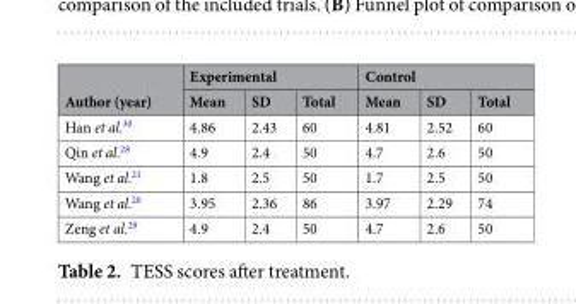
<table><thead><tr><td rowspan="2">Author (year)</td><td colspan="3">Experimental</td><td colspan="3">Control</td></tr><tr><td>Mean</td><td>SD</td><td>Total</td><td>Mean</td><td>SD</td><td>Total</td></tr></thead><tbody><tr><td>Han et al.<sup>30</sup></td><td>4.86</td><td>2.43</td><td>60</td><td>4.81</td><td>2.52</td><td>60</td></tr><tr><td>Qin et al.<sup>28</sup></td><td>4.9</td><td>2.4</td><td>50</td><td>4.7</td><td>2.6</td><td>50</td></tr><tr><td>Wang et al.<sup>21</sup></td><td>1.8</td><td>2.5</td><td>50</td><td>1.7</td><td>2.5</td><td>50</td></tr><tr><td>Wang et al.<sup>20</sup></td><td>3.95</td><td>2.36</td><td>86</td><td>3.97</td><td>2.29</td><td>74</td></tr><tr><td>Zeng et al.<sup>29</sup></td><td>4.9</td><td>2.4</td><td>50</td><td>4.7</td><td>2.6</td><td>50</td></tr></tbody></table>